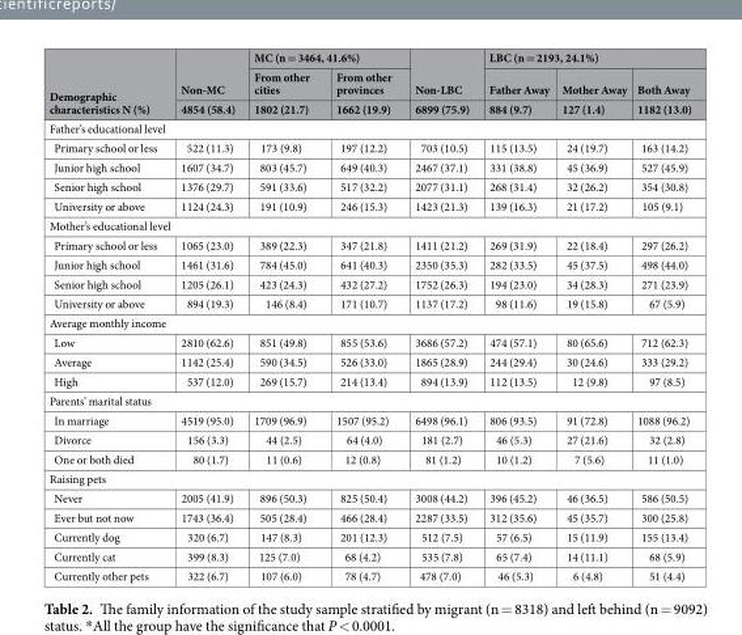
<table><thead><tr><td rowspan="3">Demographic characteristics N (%)</td><td rowspan="3">Non-MC 4854 (58.4)</td><td colspan="2">MC (n = 3464, 41.6%)</td><td rowspan="3">Non-LBC 6899 (75.9)</td><td colspan="3">LBC (n = 2193, 24.1%)</td></tr><tr><td rowspan="2">From other cities 1802 (21.7)</td><td rowspan="2">From other provinces 1662 (19.9)</td><td rowspan="2">Father Away 884 (9.7)</td><td rowspan="2">Mother Away 127 (1.4)</td><td rowspan="2">Both Away 1182 (13.0)</td></tr><tr></tr></thead><tbody><tr><td colspan="8">Father’s educational level</td></tr><tr><td>Primary school or less</td><td>522 (11.3)</td><td>173 (9.8)</td><td>197 (12.2)</td><td>703 (10.5)</td><td>115 (13.5)</td><td>24 (19.7)</td><td>163 (14.2)</td></tr><tr><td>Junior high school</td><td>1607 (34.7)</td><td>803 (45.7)</td><td>649 (40.3)</td><td>2467 (37.1)</td><td>331 (38.8)</td><td>45 (36.9)</td><td>527 (45.9)</td></tr><tr><td>Senior high school</td><td>1376 (29.7)</td><td>591 (33.6)</td><td>517 (32.2)</td><td>2077 (31.1)</td><td>268 (31.4)</td><td>32 (26.2)</td><td>354 (30.8)</td></tr><tr><td>University or above</td><td>1124 (24.3)</td><td>191 (10.9)</td><td>246 (15.3)</td><td>1423 (21.3)</td><td>139 (16.3)</td><td>21 (17.2)</td><td>105 (9.1)</td></tr><tr><td colspan="8">Mother’s educational level</td></tr><tr><td>Primary school or less</td><td>1065 (23.0)</td><td>389 (22.3)</td><td>347 (21.8)</td><td>1411 (21.2)</td><td>269 (31.9)</td><td>22 (18.4)</td><td>297 (26.2)</td></tr><tr><td>Junior high school</td><td>1461 (31.6)</td><td>784 (45.0)</td><td>641 (40.3)</td><td>2350 (35.3)</td><td>282 (33.5)</td><td>45 (37.5)</td><td>498 (44.0)</td></tr><tr><td>Senior high school</td><td>1205 (26.1)</td><td>423 (24.3)</td><td>432 (27.2)</td><td>1752 (26.3)</td><td>194 (23.0)</td><td>34 (28.3)</td><td>271 (23.9)</td></tr><tr><td>University or above</td><td>894 (19.3)</td><td>146 (8.4)</td><td>171 (10.7)</td><td>1137 (17.2)</td><td>98 (11.6)</td><td>19 (15.8)</td><td>67 (5.9)</td></tr><tr><td colspan="8">Average monthly income</td></tr><tr><td>Low</td><td>2810 (62.6)</td><td>851 (49.8)</td><td>855 (53.6)</td><td>3686 (57.2)</td><td>474 (57.1)</td><td>80 (65.6)</td><td>712 (62.3)</td></tr><tr><td>Average</td><td>1142 (25.4)</td><td>590 (34.5)</td><td>526 (33.0)</td><td>1865 (28.9)</td><td>244 (29.4)</td><td>30 (24.6)</td><td>333 (29.2)</td></tr><tr><td>High</td><td>537 (12.0)</td><td>269 (15.7)</td><td>214 (13.4)</td><td>894 (13.9)</td><td>112 (13.5)</td><td>12 (9.8)</td><td>97 (8.5)</td></tr><tr><td colspan="8">Parents’ marital status</td></tr><tr><td>In marriage</td><td>4519 (95.0)</td><td>1709 (96.9)</td><td>1507 (95.2)</td><td>6498 (96.1)</td><td>806 (93.5)</td><td>91 (72.8)</td><td>1088 (96.2)</td></tr><tr><td>Divorce</td><td>156 (3.3)</td><td>44 (2.5)</td><td>64 (4.0)</td><td>181 (2.7)</td><td>46 (5.3)</td><td>27 (21.6)</td><td>32 (2.8)</td></tr><tr><td>One or both died</td><td>80 (1.7)</td><td>11 (0.6)</td><td>12 (0.8)</td><td>81 (1.2)</td><td>10 (1.2)</td><td>7 (5.6)</td><td>11 (1.0)</td></tr><tr><td colspan="8">Raising pets</td></tr><tr><td>Never</td><td>2005 (41.9)</td><td>896 (50.3)</td><td>825 (50.4)</td><td>3008 (44.2)</td><td>396 (45.2)</td><td>46 (36.5)</td><td>586 (50.5)</td></tr><tr><td>Ever but not now</td><td>1743 (36.4)</td><td>505 (28.4)</td><td>466 (28.4)</td><td>2287 (33.5)</td><td>312 (35.6)</td><td>45 (35.7)</td><td>300 (25.8)</td></tr><tr><td>Currently dog</td><td>320 (6.7)</td><td>147 (8.3)</td><td>201 (12.3)</td><td>512 (7.5)</td><td>57 (6.5)</td><td>15 (11.9)</td><td>155 (13.4)</td></tr><tr><td>Currently cat</td><td>399 (8.3)</td><td>125 (7.0)</td><td>68 (4.2)</td><td>535 (7.8)</td><td>65 (7.4)</td><td>14 (11.1)</td><td>68 (5.9)</td></tr><tr><td>Currently other pets</td><td>322 (6.7)</td><td>107 (6.0)</td><td>78 (4.7)</td><td>478 (7.0)</td><td>46 (5.3)</td><td>6 (4.8)</td><td>51 (4.4)</td></tr></tbody></table>